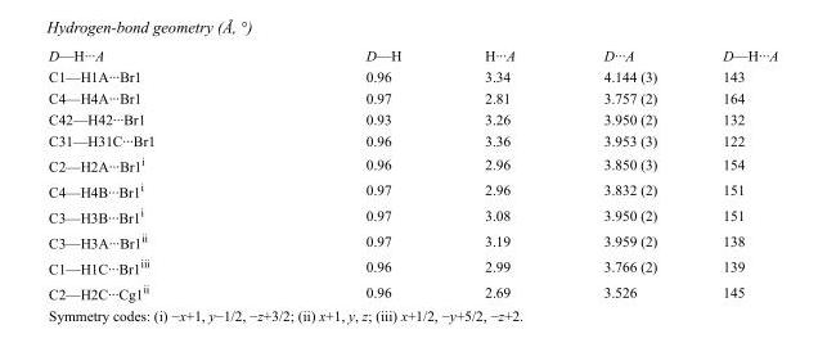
<table><tbody><tr><td>D—H···A</td><td>D—H</td><td>H···A</td><td>D···A</td><td>D—H···A</td></tr><tr><td>C1—H1A···Br1</td><td>0.96</td><td>3.34</td><td>4.144 (3)</td><td>143</td></tr><tr><td>C4—H4A···Br1</td><td>0.97</td><td>2.81</td><td>3.757 (2)</td><td>164</td></tr><tr><td>C42—H42···Br1</td><td>0.93</td><td>3.26</td><td>3.950 (2)</td><td>132</td></tr><tr><td>C31—H31C···Br1</td><td>0.96</td><td>3.36</td><td>3.953 (3)</td><td>122</td></tr><tr><td>C2—H2A···Br1<sup>i</sup></td><td>0.96</td><td>2.96</td><td>3.850 (3)</td><td>154</td></tr><tr><td>C4—H4B···Br1<sup>i</sup></td><td>0.97</td><td>2.96</td><td>3.832 (2)</td><td>151</td></tr><tr><td>C3—H3B···Br1<sup>i</sup></td><td>0.97</td><td>3.08</td><td>3.950 (2)</td><td>151</td></tr><tr><td>C3—H3A···Br1<sup>ii</sup></td><td>0.97</td><td>3.19</td><td>3.959 (2)</td><td>138</td></tr><tr><td>C1—H1C···Br1<sup>iii</sup></td><td>0.96</td><td>2.99</td><td>3.766 (2)</td><td>139</td></tr><tr><td>C2—H2C···Cg1<sup>ii</sup></td><td>0.96</td><td>2.69</td><td>3.526</td><td>145</td></tr></tbody></table>